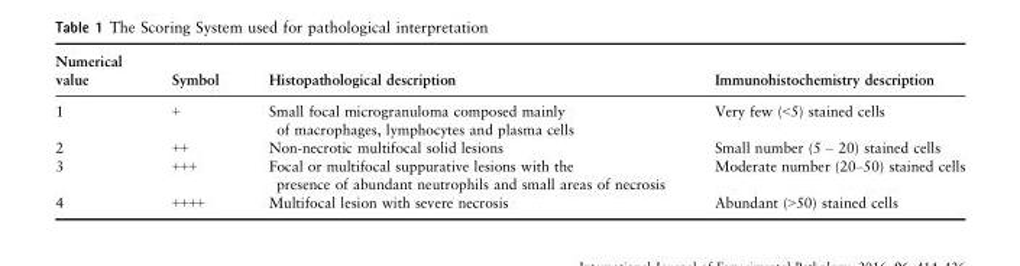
<table><thead><tr><td>Numerical value</td><td>Symbol</td><td>Histopathological description</td><td>Immunohistochemistry description</td></tr></thead><tbody><tr><td>1</td><td>+</td><td>Small focal microgranuloma composed mainly of macrophages, lymphocytes and plasma cells</td><td>Very few (&lt;5) stained cells</td></tr><tr><td>2</td><td>++</td><td>Non-necrotic multifocal solid lesions</td><td>Small number (5 – 20) stained cells</td></tr><tr><td>3</td><td>+++</td><td>Focal or multifocal suppurative lesions with the presence of abundant neutrophils and small areas of necrosis</td><td>Moderate number (20–50) stained cells</td></tr><tr><td>4</td><td>++++</td><td>Multifocal lesion with severe necrosis</td><td>Abundant (&gt;50) stained cells</td></tr></tbody></table>